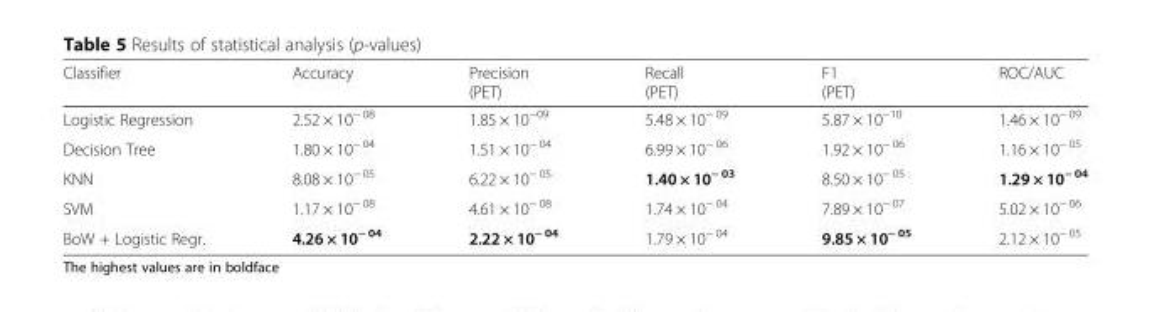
<table><thead><tr><td>Classifier</td><td>Accuracy</td><td>Precision (PET)</td><td>Recall (PET)</td><td>F1 (PET)</td><td>ROC/AUC</td></tr></thead><tbody><tr><td>Logistic Regression</td><td>2.52 × 10<sup>− 08</sup></td><td>1.85 × 10<sup>−09</sup></td><td>5.48 × 10<sup>− 09</sup></td><td>5.87 × 10<sup>−10</sup></td><td>1.46 × 10<sup>− 09</sup></td></tr><tr><td>Decision Tree</td><td>1.80 × 10<sup>− 04</sup></td><td>1.51 × 10<sup>− 04</sup></td><td>6.99 × 10<sup>− 06</sup></td><td>1.92 × 10<sup>− 06</sup></td><td>1.16 × 10<sup>− 05</sup></td></tr><tr><td>KNN</td><td>8.08 × 10<sup>− 05</sup></td><td>6.22 × 10<sup>− 05</sup></td><td>1.40 × 10<sup>− 03</sup></td><td>8.50 × 10<sup>− 05</sup></td><td>1.29 × 10<sup>− 04</sup></td></tr><tr><td>SVM</td><td>1.17 × 10<sup>− 08</sup></td><td>4.61 × 10<sup>− 08</sup></td><td>1.74 × 10<sup>− 04</sup></td><td>7.89 × 10<sup>− 07</sup></td><td>5.02 × 10<sup>− 06</sup></td></tr><tr><td>BoW + Logistic Regr.</td><td>4.26 × 10<sup>− 04</sup></td><td>2.22 × 10<sup>− 04</sup></td><td>1.79 × 10<sup>− 04</sup></td><td>9.85 × 10<sup>− 05</sup></td><td>2.12 × 10<sup>− 05</sup></td></tr></tbody></table>